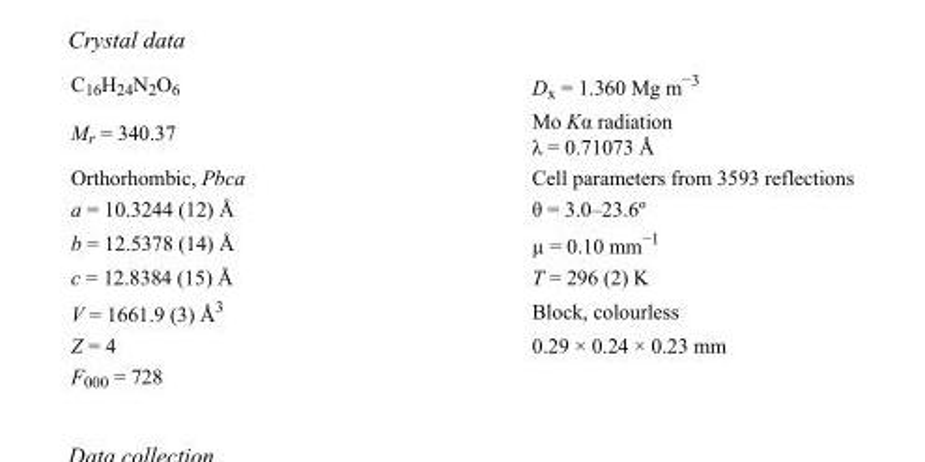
<table><tbody><tr><td>C<sub>16</sub>H<sub>24</sub>N<sub>2</sub>O<sub>6</sub></td><td>D<sub>x</sub> = 1.360 Mg m<sup>−3</sup></td></tr><tr><td>M<sub>r</sub> = 340.37</td><td>Mo Kα radiation λ = 0.71073 Å</td></tr><tr><td>Orthorhombic, Pbca</td><td>Cell parameters from 3593 reflections</td></tr><tr><td>a = 10.3244 (12) Å</td><td>θ = 3.0–23.6º</td></tr><tr><td>b = 12.5378 (14) Å</td><td>µ = 0.10 mm<sup>−1</sup></td></tr><tr><td>c = 12.8384 (15) Å</td><td>T = 296 (2) K</td></tr><tr><td>V = 1661.9 (3) Å<sup>3</sup></td><td>Block, colourless</td></tr><tr><td>Z = 4</td><td>0.29 × 0.24 × 0.23 mm</td></tr><tr><td>F000 = 728</td><td></td></tr></tbody></table>